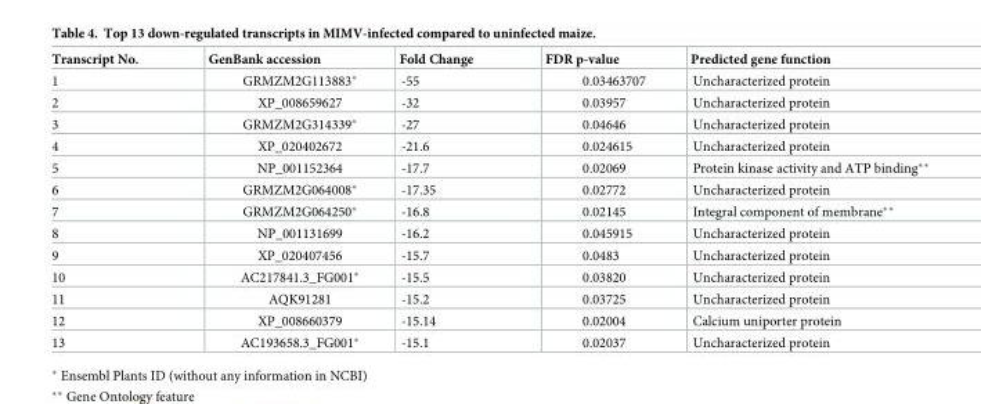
<table><thead><tr><td>Transcript No.</td><td>GenBank accession</td><td>Fold Change</td><td>FDR p-value</td><td>Predicted gene function</td></tr></thead><tbody><tr><td>1</td><td>GRMZM2G113883*</td><td>-55</td><td>0.03463707</td><td>Uncharacterized protein</td></tr><tr><td>2</td><td>XP_008659627</td><td>-32</td><td>0.03957</td><td>Uncharacterized protein</td></tr><tr><td>3</td><td>GRMZM2G314339*</td><td>-27</td><td>0.04646</td><td>Uncharacterized protein</td></tr><tr><td>4</td><td>XP_020402672</td><td>-21.6</td><td>0.024615</td><td>Uncharacterized protein</td></tr><tr><td>5</td><td>NP_001152364</td><td>-17.7</td><td>0.02069</td><td>Protein kinase activity and ATP binding**</td></tr><tr><td>6</td><td>GRMZM2G064008*</td><td>-17.35</td><td>0.02772</td><td>Uncharacterized protein</td></tr><tr><td>7</td><td>GRMZM2G064250*</td><td>-16.8</td><td>0.02145</td><td>Integral component of membrane**</td></tr><tr><td>8</td><td>NP_001131699</td><td>-16.2</td><td>0.045915</td><td>Uncharacterized protein</td></tr><tr><td>9</td><td>XP_020407456</td><td>-15.7</td><td>0.0483</td><td>Uncharacterized protein</td></tr><tr><td>10</td><td>AC217841.3_FG001*</td><td>-15.5</td><td>0.03820</td><td>Uncharacterized protein</td></tr><tr><td>11</td><td>AQK91281</td><td>-15.2</td><td>0.03725</td><td>Uncharacterized protein</td></tr><tr><td>12</td><td>XP_008660379</td><td>-15.14</td><td>0.02004</td><td>Calcium uniporter protein</td></tr><tr><td>13</td><td>AC193658.3_FG001*</td><td>-15.1</td><td>0.02037</td><td>Uncharacterized protein</td></tr></tbody></table>